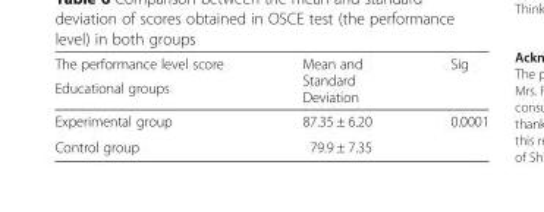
<table><thead><tr><td rowspan="2">The performance level score Educational groups</td><td rowspan="2">Mean and Standard Deviation</td><td rowspan="2">Sig</td></tr><tr></tr></thead><tbody><tr><td>Experimental group</td><td>87.35 ± 6.20</td><td rowspan="2">0.0001</td></tr><tr><td>Control group</td><td>79.9 ± 7.35</td></tr></tbody></table>